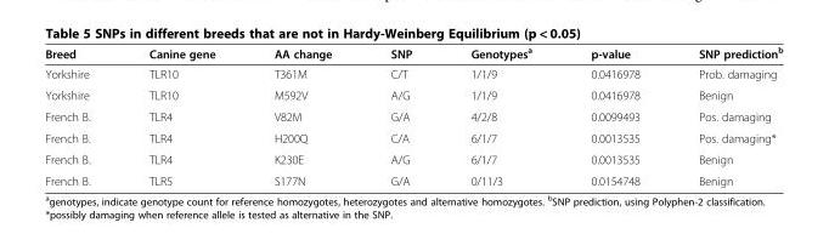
<table><thead><tr><td>Breed</td><td>Canine gene</td><td>AA change</td><td>SNP</td><td>Genotypes<sup>a</sup></td><td>p-value</td><td>SNP prediction<sup>b</sup></td></tr></thead><tbody><tr><td>Yorkshire</td><td>TLR10</td><td>T361M</td><td>C/T</td><td>1/1/9</td><td>0.0416978</td><td>Prob. damaging</td></tr><tr><td>Yorkshire</td><td>TLR10</td><td>M592V</td><td>A/G</td><td>1/1/9</td><td>0.0416978</td><td>Benign</td></tr><tr><td>French B.</td><td>TLR4</td><td>V82M</td><td>G/A</td><td>4/2/8</td><td>0.0099493</td><td>Pos. damaging</td></tr><tr><td>French B.</td><td>TLR4</td><td>H200Q</td><td>C/A</td><td>6/1/7</td><td>0.0013535</td><td>Pos. damaging*</td></tr><tr><td>French B.</td><td>TLR4</td><td>K230E</td><td>A/G</td><td>6/1/7</td><td>0.0013535</td><td>Benign</td></tr><tr><td>French B.</td><td>TLR5</td><td>S177N</td><td>G/A</td><td>0/11/3</td><td>0.0154748</td><td>Benign</td></tr></tbody></table>